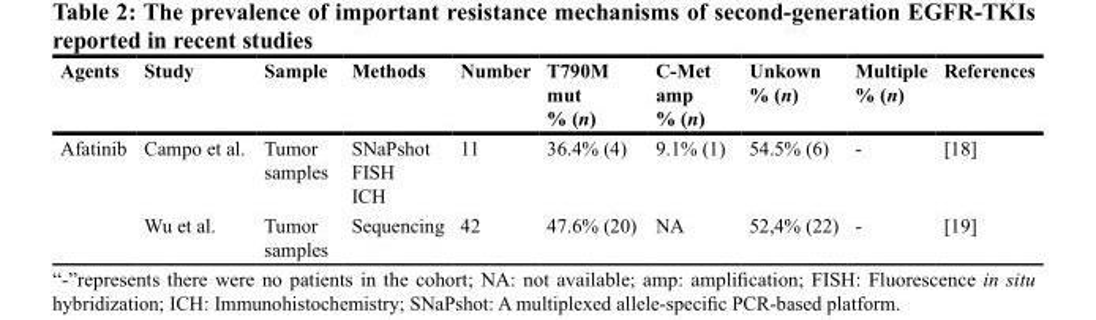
<table><thead><tr><td>Agents</td><td>Study</td><td>Sample</td><td>Methods</td><td>Number</td><td>T790M mut % (n)</td><td>C-Met amp % (n)</td><td>Unkown % (n)</td><td>Multiple % (n)</td><td>References</td></tr></thead><tbody><tr><td rowspan="2">Afatinib</td><td>Campo et al.</td><td>Tumor samples</td><td>SNaPshot FISH ICH</td><td>11</td><td>36.4% (4)</td><td>9.1% (1)</td><td>54.5% (6)</td><td>-</td><td>[18]</td></tr><tr><td>Wu et al.</td><td>Tumor samples</td><td>Sequencing</td><td>42</td><td>47.6% (20)</td><td>NA</td><td>52,4% (22)</td><td>-</td><td>[19]</td></tr></tbody></table>